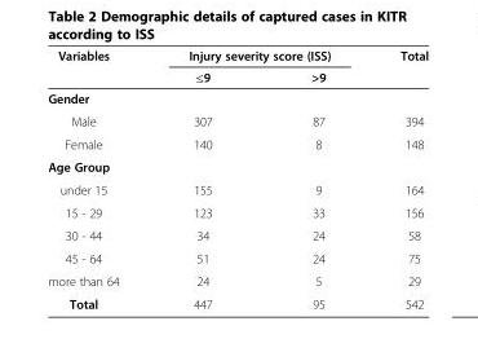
<table><thead><tr><td rowspan="2">Variables</td><td colspan="2">Injury severity score (ISS)</td><td rowspan="2">Total</td></tr><tr><td>≤9</td><td>&gt;9</td></tr></thead><tbody><tr><td colspan="4">Gender</td></tr><tr><td>Male</td><td>307</td><td>87</td><td>394</td></tr><tr><td>Female</td><td>140</td><td>8</td><td>148</td></tr><tr><td colspan="4">Age Group</td></tr><tr><td>under 15</td><td>155</td><td>9</td><td>164</td></tr><tr><td>15 - 29</td><td>123</td><td>33</td><td>156</td></tr><tr><td>30 - 44</td><td>34</td><td>24</td><td>58</td></tr><tr><td>45 - 64</td><td>51</td><td>24</td><td>75</td></tr><tr><td>more than 64</td><td>24</td><td>5</td><td>29</td></tr><tr><td>Total</td><td>447</td><td>95</td><td>542</td></tr></tbody></table>